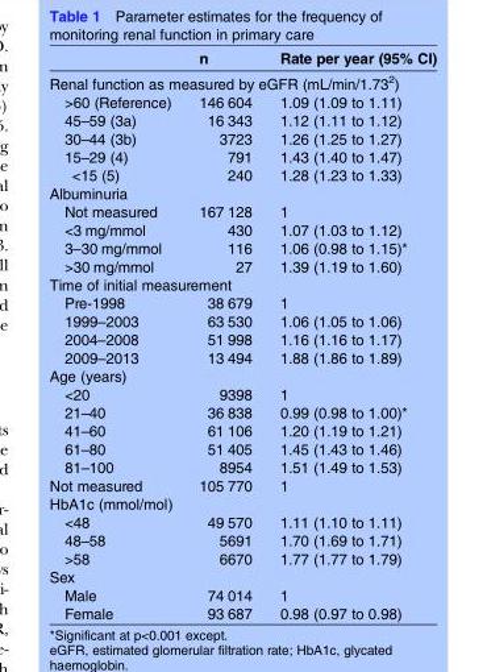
<table><thead><tr><td></td><td>n</td><td>Rate per year (95% CI)</td></tr></thead><tbody><tr><td colspan="3">Renal function as measured by eGFR (mL/min/1.73<sup>2</sup>)</td></tr><tr><td>&gt;60 (Reference)</td><td>146 604</td><td>1.09 (1.09 to 1.11)</td></tr><tr><td>45–59 (3a)</td><td>16 343</td><td>1.12 (1.11 to 1.12)</td></tr><tr><td>30–44 (3b)</td><td>3723</td><td>1.26 (1.25 to 1.27)</td></tr><tr><td>15–29 (4)</td><td>791</td><td>1.43 (1.40 to 1.47)</td></tr><tr><td>&lt;15 (5)</td><td>240</td><td>1.28 (1.23 to 1.33)</td></tr><tr><td colspan="3">Albuminuria</td></tr><tr><td>Not measured</td><td>167 128</td><td>1</td></tr><tr><td>&lt;3 mg/mmol</td><td>430</td><td>1.07 (1.03 to 1.12)</td></tr><tr><td>3–30 mg/mmol</td><td>116</td><td>1.06 (0.98 to 1.15)*</td></tr><tr><td>&gt;30 mg/mmol</td><td>27</td><td>1.39 (1.19 to 1.60)</td></tr><tr><td colspan="3">Time of initial measurement</td></tr><tr><td>Pre-1998</td><td>38 679</td><td>1</td></tr><tr><td>1999–2003</td><td>63 530</td><td>1.06 (1.05 to 1.06)</td></tr><tr><td>2004–2008</td><td>51 998</td><td>1.16 (1.16 to 1.17)</td></tr><tr><td>2009–2013</td><td>13 494</td><td>1.88 (1.86 to 1.89)</td></tr><tr><td colspan="3">Age (years)</td></tr><tr><td>&lt;20</td><td>9398</td><td>1</td></tr><tr><td>21–40</td><td>36 838</td><td>0.99 (0.98 to 1.00)*</td></tr><tr><td>41–60</td><td>61 106</td><td>1.20 (1.19 to 1.21)</td></tr><tr><td>61–80</td><td>51 405</td><td>1.45 (1.43 to 1.46)</td></tr><tr><td>81–100</td><td>8954</td><td>1.51 (1.49 to 1.53)</td></tr><tr><td>Not measured</td><td>105 770</td><td>1</td></tr><tr><td colspan="3">HbA1c (mmol/mol)</td></tr><tr><td>&lt;48</td><td>49 570</td><td>1.11 (1.10 to 1.11)</td></tr><tr><td>48–58</td><td>5691</td><td>1.70 (1.69 to 1.71)</td></tr><tr><td>&gt;58</td><td>6670</td><td>1.77 (1.77 to 1.79)</td></tr><tr><td colspan="3">Sex</td></tr><tr><td>Male</td><td>74 014</td><td>1</td></tr><tr><td>Female</td><td>93 687</td><td>0.98 (0.97 to 0.98)</td></tr></tbody></table>